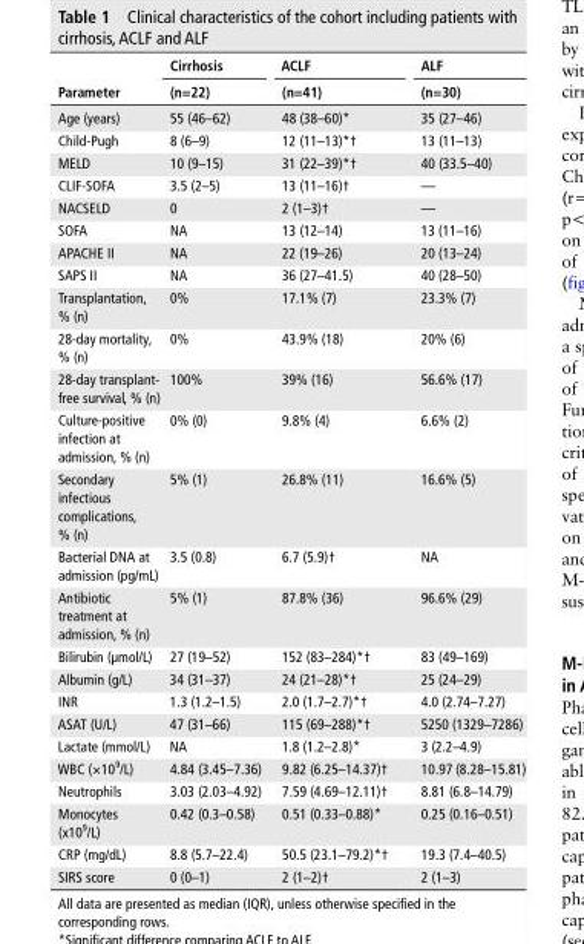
<table><thead><tr><td rowspan="2">Parameter</td><td rowspan="2">Cirrhosis (n=22)</td><td rowspan="2">AClF (n=41)</td><td rowspan="2">AlF (n=30)</td></tr><tr></tr></thead><tbody><tr><td>Age (years)</td><td>55 (46–62)</td><td>48 (38–60)*</td><td>35 (27–46)</td></tr><tr><td>Child-Pugh</td><td>8 (6–9)</td><td>12 (11–13)*†</td><td>13 (11–13)</td></tr><tr><td>MELD</td><td>10 (9–15)</td><td>31 (22–39)*†</td><td>40 (33.5–40)</td></tr><tr><td>CLIF-SOFA</td><td>3.5 (2–5)</td><td>13 (11–16)†</td><td>—</td></tr><tr><td>NACSELD</td><td>0</td><td>2 (1–3)†</td><td>—</td></tr><tr><td>SOFA</td><td>NA</td><td>13 (12–14)</td><td>13 (11–16)</td></tr><tr><td>APACHE II</td><td>NA</td><td>22 (19–26)</td><td>20 (13–24)</td></tr><tr><td>SAPS II</td><td>NA</td><td>36 (27–41.5)</td><td>40 (28–50)</td></tr><tr><td>Transplantation, % (n)</td><td>0%</td><td>17.1% (7)</td><td>23.3% (7)</td></tr><tr><td>28-day mortality, % (n)</td><td>0%</td><td>43.9% (18)</td><td>20% (6)</td></tr><tr><td>28-day transplant- free survival, % (n)</td><td>100%</td><td>39% (16)</td><td>56.6% (17)</td></tr><tr><td>Culture-positive infection at admission, % (n)</td><td>0% (0)</td><td>9.8% (4)</td><td>6.6% (2)</td></tr><tr><td>Secondary infectious complications, % (n)</td><td>5% (1)</td><td>26.8% (11)</td><td>16.6% (5)</td></tr><tr><td>Bacterial DNA at admission (pg/mL)</td><td>3.5 (0.8)</td><td>6.7 (5.9)†</td><td>NA</td></tr><tr><td>Antibiotic treatment at admission, % (n)</td><td>5% (1)</td><td>87.8% (36)</td><td>96.6% (29)</td></tr><tr><td>Bilirubin (μmol/L)</td><td>27 (19–52)</td><td>152 (83–284)*†</td><td>83 (49–169)</td></tr><tr><td>Albumin (g/L)</td><td>34 (31–37)</td><td>24 (21–28)*†</td><td>25 (24–29)</td></tr><tr><td>INR</td><td>1.3 (1.2–1.5)</td><td>2.0 (1.7–2.7)*†</td><td>4.0 (2.74–7.27)</td></tr><tr><td>ASAT (U/L)</td><td>47 (31–66)</td><td>115 (69–288)*†</td><td>5250 (1329–7286)</td></tr><tr><td>Lactate (mmol/L)</td><td>NA</td><td>1.8 (1.2–2.8)*</td><td>3 (2.2–4.9)</td></tr><tr><td>WBC (×10<sup>9</sup>/L)</td><td>4.84 (3.45–7.36)</td><td>9.82 (6.25–14.37)†</td><td>10.97 (8.28–15.81)</td></tr><tr><td>Neutrophils</td><td>3.03 (2.03–4.92)</td><td>7.59 (4.69–12.11)†</td><td>8.81 (6.8–14.79)</td></tr><tr><td>Monocytes (x10<sup>9</sup>/L)</td><td>0.42 (0.3–0.58)</td><td>0.51 (0.33–0.88)*</td><td>0.25 (0.16–0.51)</td></tr><tr><td>CRP (mg/dL)</td><td>8.8 (5.7–22.4)</td><td>50.5 (23.1–79.2)*†</td><td>19.3 (7.4–40.5)</td></tr><tr><td>SIRS score</td><td>0 (0–1)</td><td>2 (1–2)†</td><td>2 (1–3)</td></tr></tbody></table>